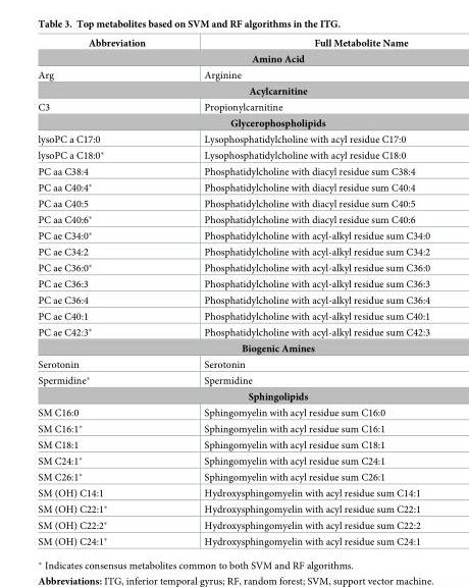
<table><thead><tr><td>Abbreviation</td><td>Full Metabolite Name</td></tr></thead><tbody><tr><td colspan="2">Amino Acid</td></tr><tr><td>Arg</td><td>Arginine</td></tr><tr><td colspan="2">Acylcarnitine</td></tr><tr><td>C3</td><td>Propionylcarnitine</td></tr><tr><td colspan="2">Glycerophospholipids</td></tr><tr><td>lysoPC a C17:0</td><td>Lysophosphatidylcholine with acyl residue C17:0</td></tr><tr><td>lysoPC a C18:0*</td><td>Lysophosphatidylcholine with acyl residue C18:0</td></tr><tr><td>PC aa C38:4</td><td>Phosphatidylcholine with diacyl residue sum C38:4</td></tr><tr><td>PC aa C40:4*</td><td>Phosphatidylcholine with diacyl residue sum C40:4</td></tr><tr><td>PC aa C40:5</td><td>Phosphatidylcholine with diacyl residue sum C40:5</td></tr><tr><td>PC aa C40:6*</td><td>Phosphatidylcholine with diacyl residue sum C40:6</td></tr><tr><td>PC ae C34:0*</td><td>Phosphatidylcholine with acyl-alkyl residue sum C34:0</td></tr><tr><td>PC ae C34:2</td><td>Phosphatidylcholine with acyl-alkyl residue sum C34:2</td></tr><tr><td>PC ae C36:0*</td><td>Phosphatidylcholine with acyl-alkyl residue sum C36:0</td></tr><tr><td>PC ae C36:3</td><td>Phosphatidylcholine with acyl-alkyl residue sum C36:3</td></tr><tr><td>PC ae C36:4</td><td>Phosphatidylcholine with acyl-alkyl residue sum C36:4</td></tr><tr><td>PC ae C40:1</td><td>Phosphatidylcholine with acyl-alkyl residue sum C40:1</td></tr><tr><td>PC ae C42:3*</td><td>Phosphatidylcholine with acyl-alkyl residue sum C42:3</td></tr><tr><td colspan="2">Biogenic Amines</td></tr><tr><td>Serotonin</td><td>Serotonin</td></tr><tr><td>Spermidine*</td><td>Spermidine</td></tr><tr><td colspan="2">Sphingolipids</td></tr><tr><td>SM C16:0</td><td>Sphingomyelin with acyl residue sum C16:0</td></tr><tr><td>SM C16:1*</td><td>Sphingomyelin with acyl residue sum C16:1</td></tr><tr><td>SM C18:1</td><td>Sphingomyelin with acyl residue sum C18:1</td></tr><tr><td>SM C24:1*</td><td>Sphingomyelin with acyl residue sum C24:1</td></tr><tr><td>SM C26:1*</td><td>Sphingomyelin with acyl residue sum C26:1</td></tr><tr><td>SM (OH) C14:1</td><td>Hydroxysphingomyelin with acyl residue sum C14:1</td></tr><tr><td>SM (OH) C22:1*</td><td>Hydroxysphingomyelin with acyl residue sum C22:1</td></tr><tr><td>SM (OH) C22:2*</td><td>Hydroxysphingomyelin with acyl residue sum C22:2</td></tr><tr><td>SM (OH) C24:1*</td><td>Hydroxysphingomyelin with acyl residue sum C24:1</td></tr></tbody></table>